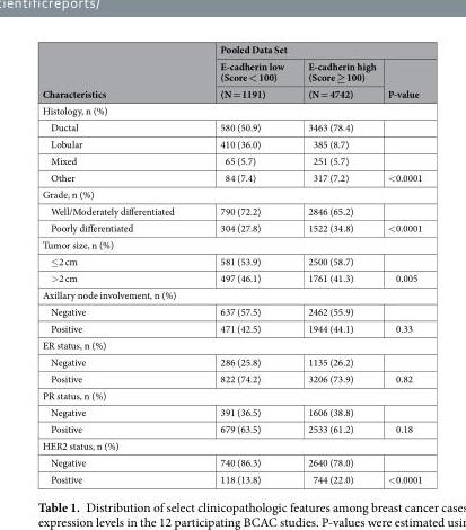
<table><thead><tr><td rowspan="3">Characteristics</td><td colspan="3">Pooled Data Set</td></tr><tr><td rowspan="2">E-cadherin low (Score &lt; 100) (N = 1191)</td><td rowspan="2">E-cadherin high (Score ≥ 100) (N = 4742)</td><td rowspan="2">P-value</td></tr><tr></tr></thead><tbody><tr><td colspan="4">Histology, n (%)</td></tr><tr><td>Ductal</td><td>580 (50.9)</td><td>3463 (78.4)</td><td></td></tr><tr><td>Lobular</td><td>410 (36.0)</td><td>385 (8.7)</td><td></td></tr><tr><td>Mixed</td><td>65 (5.7)</td><td>251 (5.7)</td><td></td></tr><tr><td>Other</td><td>84 (7.4)</td><td>317 (7.2)</td><td>&lt;0.0001</td></tr><tr><td colspan="4">Grade, n (%)</td></tr><tr><td>Well/Moderately differentiated</td><td>790 (72.2)</td><td>2846 (65.2)</td><td></td></tr><tr><td>Poorly differentiated</td><td>304 (27.8)</td><td>1522 (34.8)</td><td>&lt;0.0001</td></tr><tr><td colspan="4">Tumor size, n (%)</td></tr><tr><td>≤2 cm</td><td>581 (53.9)</td><td>2500 (58.7)</td><td></td></tr><tr><td>&gt;2 cm</td><td>497 (46.1)</td><td>1761 (41.3)</td><td>0.005</td></tr><tr><td colspan="4">Axillary node involvement, n (%)</td></tr><tr><td>Negative</td><td>637 (57.5)</td><td>2462 (55.9)</td><td></td></tr><tr><td>Positive</td><td>471 (42.5)</td><td>1944 (44.1)</td><td>0.33</td></tr><tr><td colspan="4">ER status, n (%)</td></tr><tr><td>Negative</td><td>286 (25.8)</td><td>1135 (26.2)</td><td></td></tr><tr><td>Positive</td><td>822 (74.2)</td><td>3206 (73.9)</td><td>0.82</td></tr><tr><td colspan="4">PR status, n (%)</td></tr><tr><td>Negative</td><td>391 (36.5)</td><td>1606 (38.8)</td><td></td></tr><tr><td>Positive</td><td>679 (63.5)</td><td>2533 (61.2)</td><td>0.18</td></tr><tr><td colspan="4">HER2 status, n (%)</td></tr><tr><td>Negative</td><td>740 (86.3)</td><td>2640 (78.0)</td><td></td></tr><tr><td>Positive</td><td>118 (13.8)</td><td>744 (22.0)</td><td>&lt;0.0001</td></tr></tbody></table>